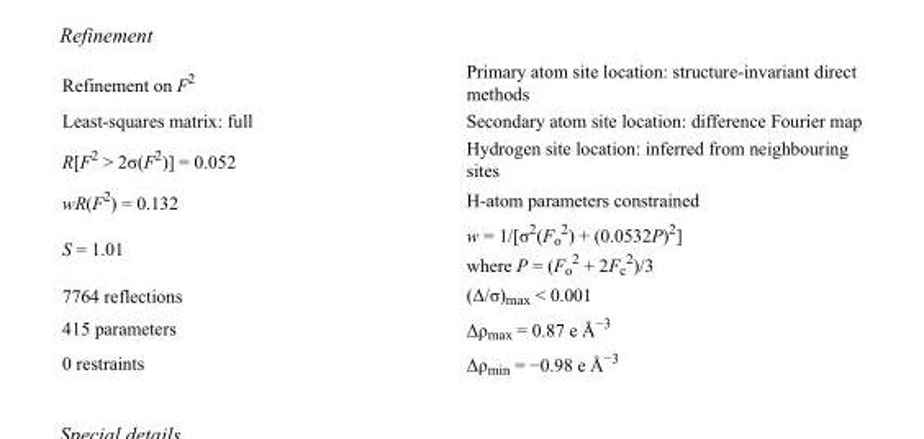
<table><tbody><tr><td>Refinement on F<sup>2</sup></td><td>Primary atom site location: structure-invariant direct methods</td></tr><tr><td>Least-squares matrix: full</td><td>Secondary atom site location: difference Fourier map</td></tr><tr><td>R[F<sup>2</sup> &gt; 2σ(F<sup>2</sup>)] = 0.052</td><td>Hydrogen site location: inferred from neighbouring sites</td></tr><tr><td>wR(F<sup>2</sup>) = 0.132</td><td>H-atom parameters constrained</td></tr><tr><td>S = 1.01</td><td>w = 1/[σ<sup>2</sup>(F<sub>o</sub> <sup>2</sup>) + (0.0532P)<sup>2</sup>] where P = (F<sub>o</sub> <sup>2</sup> + 2F<sub>c</sub> <sup>2</sup>)/3</td></tr><tr><td>7764 reflections</td><td>(Δ/σ)<sub>max</sub> &lt; 0.001</td></tr><tr><td>415 parameters</td><td>Δρ<sub>max</sub> = 0.87 e Å<sup>−3</sup></td></tr><tr><td>0 restraints</td><td>Δρ<sub>min</sub> = −0.98 e Å<sup>−3</sup></td></tr></tbody></table>